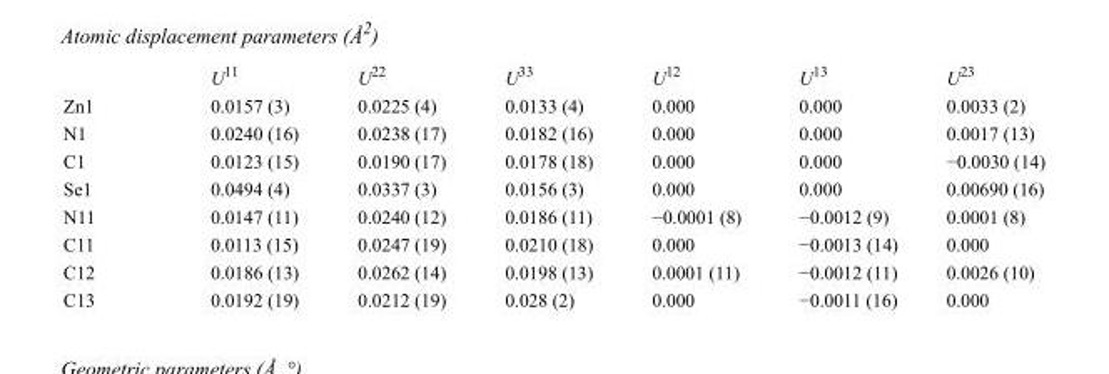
<table><thead><tr><td></td><td>U<sup>11</sup></td><td>U<sup>22</sup></td><td>U<sup>33</sup></td><td>U<sup>12</sup></td><td>U<sup>13</sup></td><td>U<sup>23</sup></td></tr></thead><tbody><tr><td>Zn1</td><td>0.0157 (3)</td><td>0.0225 (4)</td><td>0.0133 (4)</td><td>0.000</td><td>0.000</td><td>0.0033 (2)</td></tr><tr><td>N1</td><td>0.0240 (16)</td><td>0.0238 (17)</td><td>0.0182 (16)</td><td>0.000</td><td>0.000</td><td>0.0017 (13)</td></tr><tr><td>C1</td><td>0.0123 (15)</td><td>0.0190 (17)</td><td>0.0178 (18)</td><td>0.000</td><td>0.000</td><td>−0.0030 (14)</td></tr><tr><td>Se1</td><td>0.0494 (4)</td><td>0.0337 (3)</td><td>0.0156 (3)</td><td>0.000</td><td>0.000</td><td>0.00690 (16)</td></tr><tr><td>N11</td><td>0.0147 (11)</td><td>0.0240 (12)</td><td>0.0186 (11)</td><td>−0.0001 (8)</td><td>−0.0012 (9)</td><td>0.0001 (8)</td></tr><tr><td>C11</td><td>0.0113 (15)</td><td>0.0247 (19)</td><td>0.0210 (18)</td><td>0.000</td><td>−0.0013 (14)</td><td>0.000</td></tr><tr><td>C12</td><td>0.0186 (13)</td><td>0.0262 (14)</td><td>0.0198 (13)</td><td>0.0001 (11)</td><td>−0.0012 (11)</td><td>0.0026 (10)</td></tr><tr><td>C13</td><td>0.0192 (19)</td><td>0.0212 (19)</td><td>0.028 (2)</td><td>0.000</td><td>−0.0011 (16)</td><td>0.000</td></tr></tbody></table>